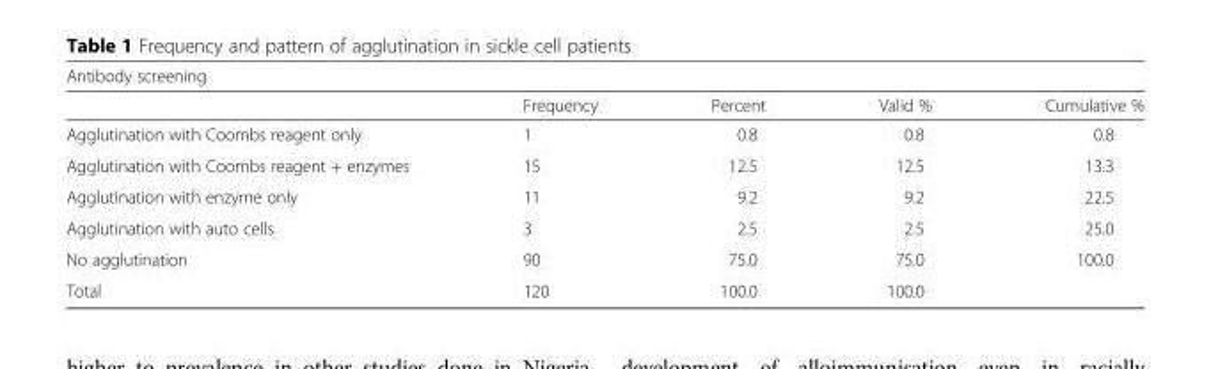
<table><thead><tr><td colspan="5">Antibody screening</td></tr><tr><td></td><td>Frequency</td><td>Percent</td><td>Valid %</td><td>Cumulative %</td></tr></thead><tbody><tr><td>Agglutination with Coombs reagent only</td><td>1</td><td>0.8</td><td>0.8</td><td>0.8</td></tr><tr><td>Agglutination with Coombs reagent + enzymes</td><td>15</td><td>12.5</td><td>12.5</td><td>13.3</td></tr><tr><td>Agglutination with enzyme only</td><td>11</td><td>9.2</td><td>9.2</td><td>22.5</td></tr><tr><td>Agglutination with auto cells</td><td>3</td><td>2.5</td><td>2.5</td><td>25.0</td></tr><tr><td>No agglutination</td><td>90</td><td>75.0</td><td>75.0</td><td>100.0</td></tr><tr><td>Total</td><td>120</td><td>100.0</td><td>100.0</td><td></td></tr></tbody></table>